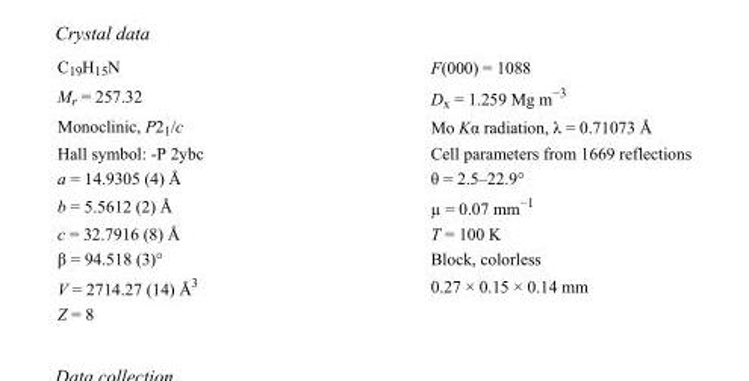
<table><tbody><tr><td>C<sub>19</sub>H<sub>15</sub>N</td><td>F(000) = 1088</td></tr><tr><td>M<sub>r</sub> = 257.32</td><td>D<sub>x</sub> = 1.259 Mg m<sup>−3</sup></td></tr><tr><td>Monoclinic, P2<sub>1</sub>/c</td><td>Mo Kα radiation, λ = 0.71073 Å</td></tr><tr><td>Hall symbol: -P 2ybc</td><td>Cell parameters from 1669 reflections</td></tr><tr><td>a = 14.9305 (4) Å</td><td>θ = 2.5–22.9°</td></tr><tr><td>b = 5.5612 (2) Å</td><td>µ = 0.07 mm<sup>−1</sup></td></tr><tr><td>c = 32.7916 (8) Å</td><td>T = 100 K</td></tr><tr><td>β = 94.518 (3)°</td><td>Block, colorless</td></tr><tr><td>V = 2714.27 (14) Å<sup>3</sup></td><td>0.27 × 0.15 × 0.14 mm</td></tr><tr><td>Z = 8</td><td></td></tr></tbody></table>